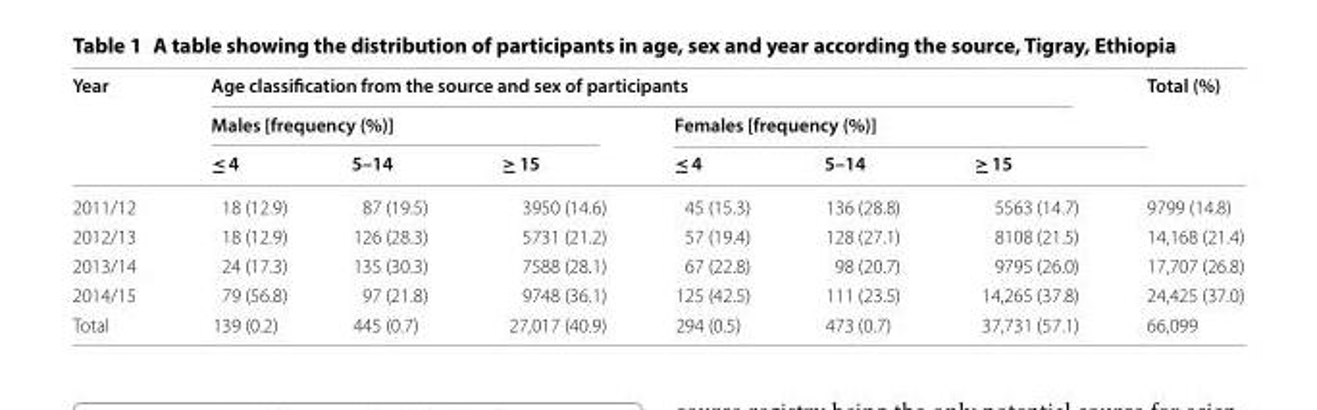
<table><thead><tr><td rowspan="3">Year</td><td colspan="6">Age classification from the source and sex of participants</td><td rowspan="3">Total (%)</td></tr><tr><td colspan="3">Males [frequency (%)]</td><td colspan="3">Females [frequency (%)]</td></tr><tr><td>≤ 4</td><td>5–14</td><td>≥ 15</td><td>≤ 4</td><td>5–14</td><td>≥ 15</td></tr></thead><tbody><tr><td>2011/12</td><td>18 (12.9)</td><td>87 (19.5)</td><td>3950 (14.6)</td><td>45 (15.3)</td><td>136 (28.8)</td><td>5563 (14.7)</td><td>9799 (14.8)</td></tr><tr><td>2012/13</td><td>18 (12.9)</td><td>126 (28.3)</td><td>5731 (21.2)</td><td>57 (19.4)</td><td>128 (27.1)</td><td>8108 (21.5)</td><td>14,168 (21.4)</td></tr><tr><td>2013/14</td><td>24 (17.3)</td><td>135 (30.3)</td><td>7588 (28.1)</td><td>67 (22.8)</td><td>98 (20.7)</td><td>9795 (26.0)</td><td>17,707 (26.8)</td></tr><tr><td>2014/15</td><td>79 (56.8)</td><td>97 (21.8)</td><td>9748 (36.1)</td><td>125 (42.5)</td><td>111 (23.5)</td><td>14,265 (37.8)</td><td>24,425 (37.0)</td></tr><tr><td>Total</td><td>139 (0.2)</td><td>445 (0.7)</td><td>27,017 (40.9)</td><td>294 (0.5)</td><td>473 (0.7)</td><td>37,731 (57.1)</td><td>66,099</td></tr></tbody></table>